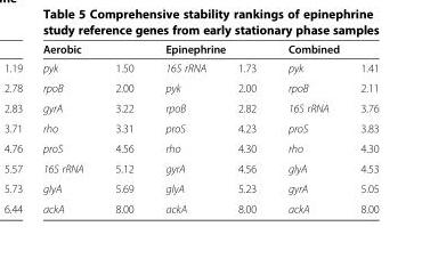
<table><thead><tr><td colspan="2">Aerobic</td><td colspan="2">Epinephrine</td><td colspan="2">Combined</td></tr><tr><td>pyk</td><td>1.50</td><td>16S rRNA</td><td>1.73</td><td>pyk</td><td>1.41</td></tr></thead><tbody><tr><td>rpoB</td><td>2.00</td><td>pyk</td><td>2.00</td><td>rpoB</td><td>2.11</td></tr><tr><td>gyrA</td><td>3.22</td><td>rpoB</td><td>2.82</td><td>16S rRNA</td><td>3.76</td></tr><tr><td>rho</td><td>3.31</td><td>proS</td><td>4.23</td><td>proS</td><td>3.83</td></tr><tr><td>proS</td><td>4.56</td><td>rho</td><td>4.30</td><td>rho</td><td>4.30</td></tr><tr><td>16S rRNA</td><td>5.12</td><td>gyrA</td><td>4.56</td><td>glyA</td><td>4.53</td></tr><tr><td>glyA</td><td>5.69</td><td>glyA</td><td>5.23</td><td>gyrA</td><td>5.05</td></tr><tr><td>ackA</td><td>8.00</td><td>ackA</td><td>8.00</td><td>ackA</td><td>8.00</td></tr></tbody></table>